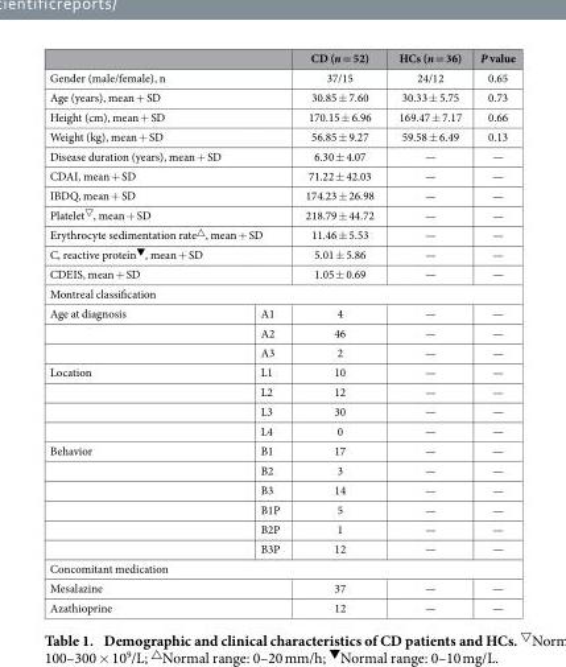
<table><thead><tr><td></td><td></td><td>CD (n = 52)</td><td>HCs (n = 36)</td><td>P value</td></tr></thead><tbody><tr><td colspan="2">Gender (male/female), n</td><td>37/15</td><td>24/12</td><td>0.65</td></tr><tr><td colspan="2">Age (years), mean + SD</td><td>30.85 ± 7.60</td><td>30.33 ± 5.75</td><td>0.73</td></tr><tr><td colspan="2">Height (cm), mean + SD</td><td>170.15 ± 6.96</td><td>169.47 ± 7.17</td><td>0.66</td></tr><tr><td colspan="2">Weight (kg), mean + SD</td><td>56.85 ± 9.27</td><td>59.58 ± 6.49</td><td>0.13</td></tr><tr><td colspan="2">Disease duration (years), mean + SD</td><td>6.30 ± 4.07</td><td>—</td><td>—</td></tr><tr><td colspan="2">CDAI, mean + SD</td><td>71.22 ± 42.03</td><td>—</td><td>—</td></tr><tr><td colspan="2">IBDQ, mean + SD</td><td>174.23 ± 26.98</td><td>—</td><td>—</td></tr><tr><td colspan="2">Platelet<sup>▽</sup>, mean + SD</td><td>218.79 ± 44.72</td><td>—</td><td>—</td></tr><tr><td colspan="2">Erythrocyte sedimentation rate<sup>△</sup>, mean + SD</td><td>11.46 ± 5.53</td><td>—</td><td>—</td></tr><tr><td colspan="2">C, reactive protein<sup>▼</sup>, mean + SD</td><td>5.01 ± 5.86</td><td>—</td><td>—</td></tr><tr><td colspan="2">CDEIS, mean + SD</td><td>1.05 ± 0.69</td><td>—</td><td>—</td></tr><tr><td colspan="5">Montreal classification</td></tr><tr><td rowspan="3">Age at diagnosis</td><td>A1</td><td>4</td><td>—</td><td>—</td></tr><tr><td>A2</td><td>46</td><td>—</td><td>—</td></tr><tr><td>A3</td><td>2</td><td>—</td><td>—</td></tr><tr><td rowspan="4">Location</td><td>L1</td><td>10</td><td>—</td><td>—</td></tr><tr><td>L2</td><td>12</td><td>—</td><td>—</td></tr><tr><td>L3</td><td>30</td><td>—</td><td>—</td></tr><tr><td>L4</td><td>0</td><td>—</td><td>—</td></tr><tr><td rowspan="6">Behavior</td><td>B1</td><td>17</td><td>—</td><td>—</td></tr><tr><td>B2</td><td>3</td><td>—</td><td>—</td></tr><tr><td>B3</td><td>14</td><td>—</td><td>—</td></tr><tr><td>B1P</td><td>5</td><td>—</td><td>—</td></tr><tr><td>B2P</td><td>1</td><td>—</td><td>—</td></tr><tr><td>B3P</td><td>12</td><td>—</td><td>—</td></tr><tr><td colspan="5">Concomitant medication</td></tr><tr><td colspan="2">Mesalazine</td><td>37</td><td>—</td><td>—</td></tr><tr><td colspan="2">Azathioprine</td><td>12</td><td>—</td><td>—</td></tr></tbody></table>